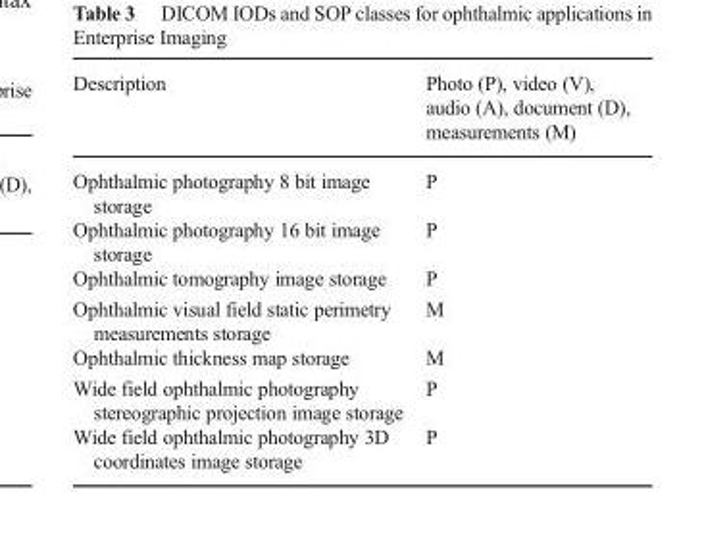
<table><thead><tr><td>Description</td><td>Photo (P), video (V), audio (A), document (D), measurements (M)</td></tr></thead><tbody><tr><td>Ophthalmic photography 8 bit image storage</td><td>P</td></tr><tr><td>Ophthalmic photography 16 bit image storage</td><td>P</td></tr><tr><td>Ophthalmic tomography image storage</td><td>P</td></tr><tr><td>Ophthalmic visual field static perimetry measurements storage</td><td>M</td></tr><tr><td>Ophthalmic thickness map storage</td><td>M</td></tr><tr><td>Wide field ophthalmic photography stereographic projection image storage</td><td>P</td></tr><tr><td>Wide field ophthalmic photography 3D coordinates image storage</td><td>P</td></tr></tbody></table>